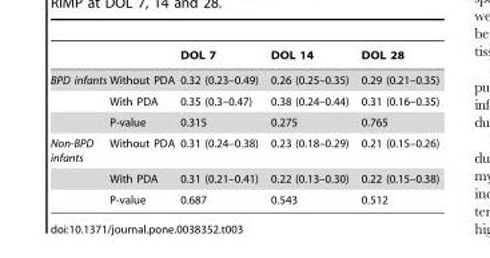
<table><thead><tr><td></td><td></td><td>DOL 7</td><td>DOL 14</td><td>DOL 28</td></tr></thead><tbody><tr><td rowspan="3">BPD infants</td><td>Without PDA</td><td>0.32 (0.23–0.49)</td><td>0.26 (0.25–0.35)</td><td>0.29 (0.21–0.35)</td></tr><tr><td>With PDA</td><td>0.35 (0.3–0.47)</td><td>0.38 (0.24–0.44)</td><td>0.31 (0.16–0.35)</td></tr><tr><td>P-value</td><td>0.315</td><td>0.275</td><td>0.765</td></tr><tr><td rowspan="3">Non-BPD infants</td><td>Without PDA</td><td>0.31 (0.24–0.38)</td><td>0.23 (0.18–0.29)</td><td>0.21 (0.15–0.26)</td></tr><tr><td>With PDA</td><td>0.31 (0.21–0.41)</td><td>0.22 (0.13–0.30)</td><td>0.22 (0.15–0.38)</td></tr><tr><td>P-value</td><td>0.687</td><td>0.543</td><td>0.512</td></tr></tbody></table>